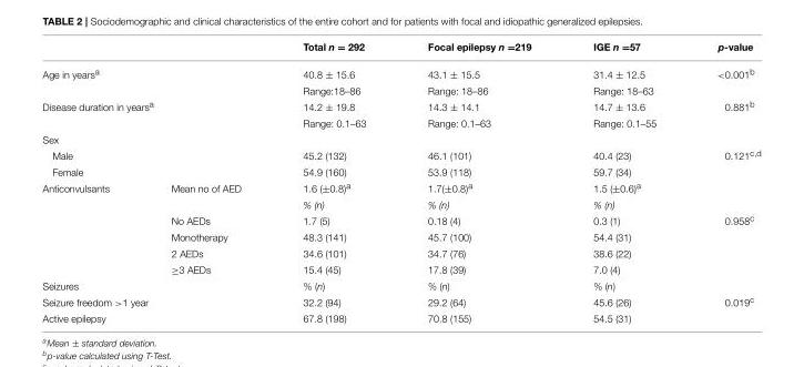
<table><thead><tr><td></td><td></td><td>Total n = 292</td><td>Focal epilepsy n =219</td><td>IGE n =57</td><td>p-value</td></tr></thead><tbody><tr><td colspan="2">Age in years<sup>a</sup></td><td>40.8 ± 15.6</td><td>43.1 ± 15.5</td><td>31.4 ± 12.5</td><td>&lt;0.001<sup>b</sup></td></tr><tr><td></td><td></td><td>Range:18–86</td><td>Range: 18–86</td><td>Range: 18–63</td><td></td></tr><tr><td colspan="2">Disease duration in years<sup>a</sup></td><td>14.2 ± 19.8</td><td>14.3 ± 14.1</td><td>14.7 ± 13.6</td><td>0.881<sup>b</sup></td></tr><tr><td></td><td></td><td>Range: 0.1–63</td><td>Range: 0.1–63</td><td>Range: 0.1–55</td><td></td></tr><tr><td colspan="6">Sex</td></tr><tr><td>Male</td><td></td><td>45.2 (132)</td><td>46.1 (101)</td><td>40.4 (23)</td><td>0.121<sup>c,d</sup></td></tr><tr><td>Female</td><td></td><td>54.9 (160)</td><td>53.9 (118)</td><td>59.7 (34)</td><td></td></tr><tr><td rowspan="6">Anticonvulsants</td><td>Mean no of AED</td><td>1.6 (±0.8)<sup>a</sup></td><td>1.7(±0.8)<sup>a</sup></td><td>1.5 (±0.6)<sup>a</sup></td><td></td></tr><tr><td></td><td>% (n)</td><td>% (n)</td><td>% (n)</td><td></td></tr><tr><td>No AEDs</td><td>1.7 (5)</td><td>0.18 (4)</td><td>0.3 (1)</td><td>0.958<sup>c</sup></td></tr><tr><td>Monotherapy</td><td>48.3 (141)</td><td>45.7 (100)</td><td>54.4 (31)</td><td></td></tr><tr><td>2 AEDs</td><td>34.6 (101)</td><td>34.7 (76)</td><td>38.6 (22)</td><td></td></tr><tr><td>≥3 AEDs</td><td>15.4 (45)</td><td>17.8 (39)</td><td>7.0 (4)</td><td></td></tr><tr><td>Seizures</td><td></td><td>% (n)</td><td>% (n)</td><td>% (n)</td><td></td></tr><tr><td colspan="2">Seizure freedom &gt;1 year</td><td>32.2 (94)</td><td>29.2 (64)</td><td>45.6 (26)</td><td>0.019<sup>c</sup></td></tr><tr><td colspan="2">Active epilepsy</td><td>67.8 (198)</td><td>70.8 (155)</td><td>54.5 (31)</td><td></td></tr></tbody></table>